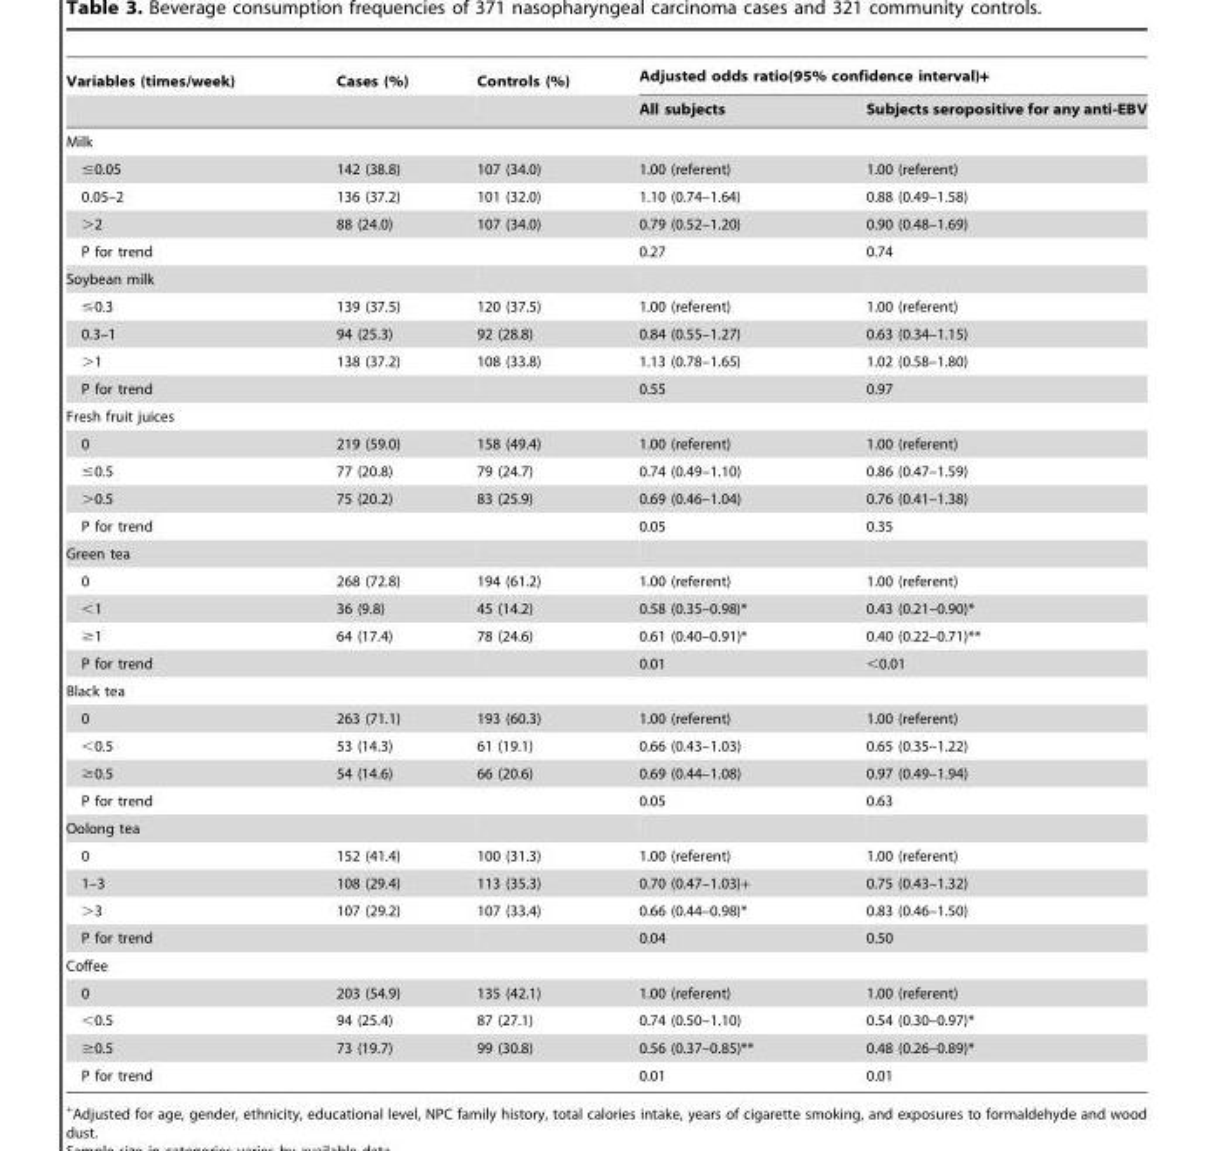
<table><thead><tr><td rowspan="2">Variables (times/week)</td><td rowspan="2">Cases (%)</td><td rowspan="2">Controls (%)</td><td colspan="2">Adjusted odds ratio(95% confidence interval)+</td></tr><tr><td>All subjects</td><td>Subjects seropositive for any anti-EBV</td></tr></thead><tbody><tr><td colspan="5">Milk</td></tr><tr><td>≤0.05</td><td>142 (38.8)</td><td>107 (34.0)</td><td>1.00 (referent)</td><td>1.00 (referent)</td></tr><tr><td>0.05–2</td><td>136 (37.2)</td><td>101 (32.0)</td><td>1.10 (0.74–1.64)</td><td>0.88 (0.49–1.58)</td></tr><tr><td>&gt;2</td><td>88 (24.0)</td><td>107 (34.0)</td><td>0.79 (0.52–1.20)</td><td>0.90 (0.48–1.69)</td></tr><tr><td>P for trend</td><td></td><td></td><td>0.27</td><td>0.74</td></tr><tr><td colspan="5">Soybean milk</td></tr><tr><td>≤0.3</td><td>139 (37.5)</td><td>120 (37.5)</td><td>1.00 (referent)</td><td>1.00 (referent)</td></tr><tr><td>0.3–1</td><td>94 (25.3)</td><td>92 (28.8)</td><td>0.84 (0.55–1.27)</td><td>0.63 (0.34–1.15)</td></tr><tr><td>&gt;1</td><td>138 (37.2)</td><td>108 (33.8)</td><td>1.13 (0.78–1.65)</td><td>1.02 (0.58–1.80)</td></tr><tr><td>P for trend</td><td></td><td></td><td>0.55</td><td>0.97</td></tr><tr><td colspan="5">Fresh fruit juices</td></tr><tr><td>0</td><td>219 (59.0)</td><td>158 (49.4)</td><td>1.00 (referent)</td><td>1.00 (referent)</td></tr><tr><td>≤0.5</td><td>77 (20.8)</td><td>79 (24.7)</td><td>0.74 (0.49–1.10)</td><td>0.86 (0.47–1.59)</td></tr><tr><td>&gt;0.5</td><td>75 (20.2)</td><td>83 (25.9)</td><td>0.69 (0.46–1.04)</td><td>0.76 (0.41–1.38)</td></tr><tr><td>P for trend</td><td></td><td></td><td>0.05</td><td>0.35</td></tr><tr><td colspan="5">Green tea</td></tr><tr><td>0</td><td>268 (72.8)</td><td>194 (61.2)</td><td>1.00 (referent)</td><td>1.00 (referent)</td></tr><tr><td>&lt;1</td><td>36 (9.8)</td><td>45 (14.2)</td><td>0.58 (0.35–0.98)*</td><td>0.43 (0.21–0.90)*</td></tr><tr><td>≥1</td><td>64 (17.4)</td><td>78 (24.6)</td><td>0.61 (0.40–0.91)*</td><td>0.40 (0.22–0.71)**</td></tr><tr><td>P for trend</td><td></td><td></td><td>0.01</td><td>&lt;0.01</td></tr><tr><td colspan="5">Black tea</td></tr><tr><td>0</td><td>263 (71.1)</td><td>193 (60.3)</td><td>1.00 (referent)</td><td>1.00 (referent)</td></tr><tr><td>&lt;0.5</td><td>53 (14.3)</td><td>61 (19.1)</td><td>0.66 (0.43–1.03)</td><td>0.65 (0.35–1.22)</td></tr><tr><td>≥0.5</td><td>54 (14.6)</td><td>66 (20.6)</td><td>0.69 (0.44–1.08)</td><td>0.97 (0.49–1.94)</td></tr><tr><td>P for trend</td><td></td><td></td><td>0.05</td><td>0.63</td></tr><tr><td colspan="5">Oolong tea</td></tr><tr><td>0</td><td>152 (41.4)</td><td>100 (31.3)</td><td>1.00 (referent)</td><td>1.00 (referent)</td></tr><tr><td>1–3</td><td>108 (29.4)</td><td>113 (35.3)</td><td>0.70 (0.47–1.03)+</td><td>0.75 (0.43–1.32)</td></tr><tr><td>&gt;3</td><td>107 (29.2)</td><td>107 (33.4)</td><td>0.66 (0.44–0.98)*</td><td>0.83 (0.46–1.50)</td></tr><tr><td>P for trend</td><td></td><td></td><td>0.04</td><td>0.50</td></tr><tr><td colspan="5">Coffee</td></tr><tr><td>0</td><td>203 (54.9)</td><td>135 (42.1)</td><td>1.00 (referent)</td><td>1.00 (referent)</td></tr><tr><td>&lt;0.5</td><td>94 (25.4)</td><td>87 (27.1)</td><td>0.74 (0.50–1.10)</td><td>0.54 (0.30–0.97)*</td></tr><tr><td>≥0.5</td><td>73 (19.7)</td><td>99 (30.8)</td><td>0.56 (0.37–0.85)**</td><td>0.48 (0.26–0.89)*</td></tr><tr><td>P for trend</td><td></td><td></td><td>0.01</td><td>0.01</td></tr></tbody></table>